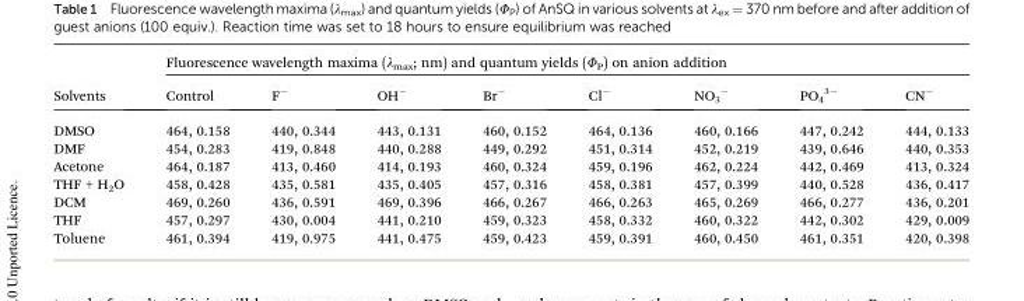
<table><thead><tr><td rowspan="2">Solvents</td><td colspan="8">Fluorescence wavelength maxima (λ<sub>max</sub>; nm) and quantum yields (Φ<sub>P</sub>) on anion addition</td></tr><tr><td>Control</td><td>F<sup>–</sup></td><td>OH<sup>–</sup></td><td>Br<sup>–</sup></td><td>Cl<sup>–</sup></td><td>NO<sub>3</sub> <sup>–</sup></td><td>PO<sub>4</sub> <sup>3–</sup></td><td>CN<sup>–</sup></td></tr></thead><tbody><tr><td>DMSO</td><td>464, 0.158</td><td>440, 0.344</td><td>443, 0.131</td><td>460, 0.152</td><td>464, 0.136</td><td>460, 0.166</td><td>447, 0.242</td><td>444, 0.133</td></tr><tr><td>DMF</td><td>454, 0.283</td><td>419, 0.848</td><td>440, 0.288</td><td>449, 0.292</td><td>451, 0.314</td><td>452, 0.219</td><td>439, 0.646</td><td>440, 0.353</td></tr><tr><td>Acetone</td><td>464, 0.187</td><td>413, 0.460</td><td>414, 0.193</td><td>460, 0.324</td><td>459, 0.196</td><td>462, 0.224</td><td>442, 0.469</td><td>413, 0.324</td></tr><tr><td>THF + H<sub>2</sub>O</td><td>458, 0.428</td><td>435, 0.581</td><td>435, 0.405</td><td>457, 0.316</td><td>458, 0.381</td><td>457, 0.399</td><td>440, 0.528</td><td>436, 0.417</td></tr><tr><td>DCM</td><td>469, 0.260</td><td>436, 0.591</td><td>469, 0.396</td><td>466, 0.267</td><td>466, 0.263</td><td>465, 0.269</td><td>466, 0.277</td><td>436, 0.201</td></tr><tr><td>THF</td><td>457, 0.297</td><td>430, 0.004</td><td>441, 0.210</td><td>459, 0.323</td><td>458, 0.332</td><td>460, 0.322</td><td>442, 0.302</td><td>429, 0.009</td></tr><tr><td>Toluene</td><td>461, 0.394</td><td>419, 0.975</td><td>441, 0.475</td><td>459, 0.423</td><td>459, 0.391</td><td>460, 0.450</td><td>461, 0.351</td><td>420, 0.398</td></tr></tbody></table>